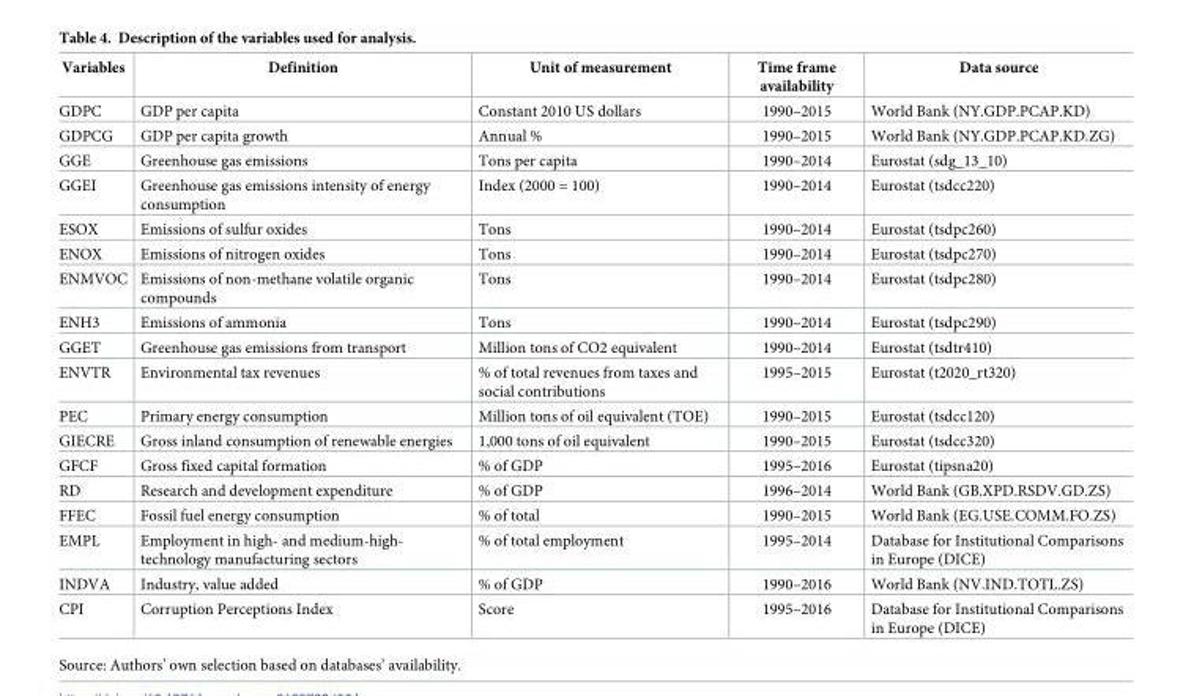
<table><thead><tr><td>Variables</td><td>Definition</td><td>Unit of measurement</td><td>Time frame availability</td><td>Data source</td></tr></thead><tbody><tr><td>GDPC</td><td>GDP per capita</td><td>Constant 2010 US dollars</td><td>1990–2015</td><td>World Bank (NY.GDP.PCAP.KD)</td></tr><tr><td>GDPCG</td><td>GDP per capita growth</td><td>Annual %</td><td>1990–2015</td><td>World Bank (NY.GDP.PCAP.KD.ZG)</td></tr><tr><td>GGE</td><td>Greenhouse gas emissions</td><td>Tons per capita</td><td>1990–2014</td><td>Eurostat (sdg_13_10)</td></tr><tr><td>GGEI</td><td>Greenhouse gas emissions intensity of energy consumption</td><td>Index (2000 = 100)</td><td>1990–2014</td><td>Eurostat (tsdcc220)</td></tr><tr><td>ESOX</td><td>Emissions of sulfur oxides</td><td>Tons</td><td>1990–2014</td><td>Eurostat (tsdpc260)</td></tr><tr><td>ENOX</td><td>Emissions of nitrogen oxides</td><td>Tons</td><td>1990–2014</td><td>Eurostat (tsdpc270)</td></tr><tr><td>ENMVOC</td><td>Emissions of non-methane volatile organic compounds</td><td>Tons</td><td>1990–2014</td><td>Eurostat (tsdpc280)</td></tr><tr><td>ENH3</td><td>Emissions of ammonia</td><td>Tons</td><td>1990–2014</td><td>Eurostat (tsdpc290)</td></tr><tr><td>GGET</td><td>Greenhouse gas emissions from transport</td><td>Million tons of CO2 equivalent</td><td>1990–2014</td><td>Eurostat (tsdtr410)</td></tr><tr><td>ENVTR</td><td>Environmental tax revenues</td><td>% of total revenues from taxes and social contributions</td><td>1995–2015</td><td>Eurostat (t2020_rt320)</td></tr><tr><td>PEC</td><td>Primary energy consumption</td><td>Million tons of oil equivalent (TOE)</td><td>1990–2015</td><td>Eurostat (tsdcc120)</td></tr><tr><td>GIECRE</td><td>Gross inland consumption of renewable energies</td><td>1,000 tons of oil equivalent</td><td>1990–2015</td><td>Eurostat (tsdcc320)</td></tr><tr><td>GFCF</td><td>Gross fixed capital formation</td><td>% of GDP</td><td>1995–2016</td><td>Eurostat (tipsna20)</td></tr><tr><td>RD</td><td>Research and development expenditure</td><td>% of GDP</td><td>1996–2014</td><td>World Bank (GB.XPD.RSDV.GD.ZS)</td></tr><tr><td>FFEC</td><td>Fossil fuel energy consumption</td><td>% of total</td><td>1990–2015</td><td>World Bank (EG.USE.COMM.FO.ZS)</td></tr><tr><td>EMPL</td><td>Employment in high- and medium-high- technology manufacturing sectors</td><td>% of total employment</td><td>1995–2014</td><td>Database for Institutional Comparisons in Europe (DICE)</td></tr><tr><td>INDVA</td><td>Industry, value added</td><td>% of GDP</td><td>1990–2016</td><td>World Bank (NV.IND.TOTL.ZS)</td></tr><tr><td>CPI</td><td>Corruption Perceptions Index</td><td>Score</td><td>1995–2016</td><td>Database for Institutional Comparisons in Europe (DICE)</td></tr></tbody></table>